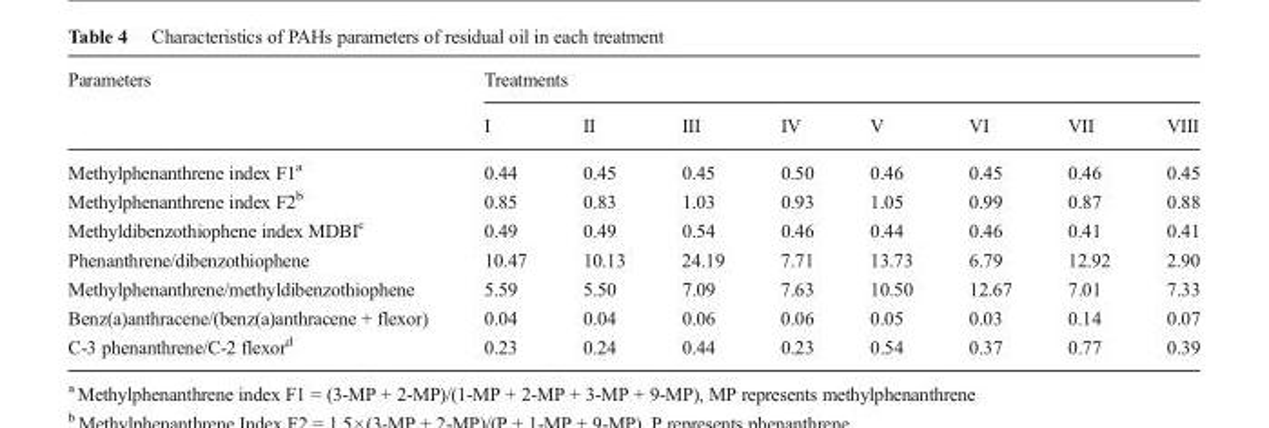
<table><thead><tr><td rowspan="2">Parameters</td><td colspan="8">Treatments</td></tr><tr><td>I</td><td>II</td><td>III</td><td>IV</td><td>V</td><td>VI</td><td>VII</td><td>VIII</td></tr></thead><tbody><tr><td>Methylphenanthrene index F1<sup>a</sup></td><td>0.44</td><td>0.45</td><td>0.45</td><td>0.50</td><td>0.46</td><td>0.45</td><td>0.46</td><td>0.45</td></tr><tr><td>Methylphenanthrene index F2<sup>b</sup></td><td>0.85</td><td>0.83</td><td>1.03</td><td>0.93</td><td>1.05</td><td>0.99</td><td>0.87</td><td>0.88</td></tr><tr><td>Methyldibenzothiophene index MDBI<sup>c</sup></td><td>0.49</td><td>0.49</td><td>0.54</td><td>0.46</td><td>0.44</td><td>0.46</td><td>0.41</td><td>0.41</td></tr><tr><td>Phenanthrene/dibenzothiophene</td><td>10.47</td><td>10.13</td><td>24.19</td><td>7.71</td><td>13.73</td><td>6.79</td><td>12.92</td><td>2.90</td></tr><tr><td>Methylphenanthrene/methyldibenzothiophene</td><td>5.59</td><td>5.50</td><td>7.09</td><td>7.63</td><td>10.50</td><td>12.67</td><td>7.01</td><td>7.33</td></tr><tr><td>Benz(a)anthracene/(benz(a)anthracene + flexor)</td><td>0.04</td><td>0.04</td><td>0.06</td><td>0.06</td><td>0.05</td><td>0.03</td><td>0.14</td><td>0.07</td></tr><tr><td>C-3 phenanthrene/C-2 flexor<sup>d</sup></td><td>0.23</td><td>0.24</td><td>0.44</td><td>0.23</td><td>0.54</td><td>0.37</td><td>0.77</td><td>0.39</td></tr></tbody></table>